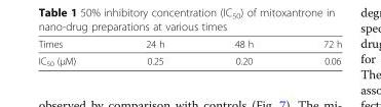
<table><thead><tr><td>Times</td><td>24 h</td><td>48 h</td><td>72 h</td></tr></thead><tbody><tr><td>IC<sub>50</sub> (μM)</td><td>0.25</td><td>0.20</td><td>0.06</td></tr></tbody></table>